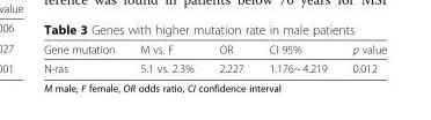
<table><thead><tr><td>Gene mutation</td><td>M vs. F</td><td>OR</td><td>CI 95%</td><td>p value</td></tr></thead><tbody><tr><td>N-ras</td><td>5.1 vs. 2.3%</td><td>2.227</td><td>1.176~ 4.219</td><td>0.012</td></tr></tbody></table>